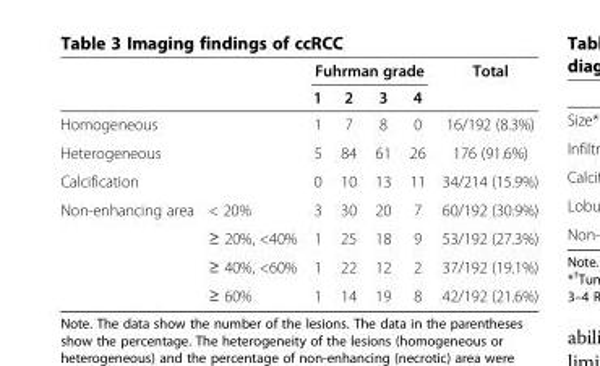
<table><thead><tr><td rowspan="2"></td><td rowspan="2"></td><td colspan="4">Fuhrman grade</td><td rowspan="2">Total</td></tr><tr><td>1</td><td>2</td><td>3</td><td>4</td></tr></thead><tbody><tr><td colspan="2">Homogeneous</td><td>1</td><td>7</td><td>8</td><td>0</td><td>16/192 (8.3%)</td></tr><tr><td colspan="2">Heterogeneous</td><td>5</td><td>84</td><td>61</td><td>26</td><td>176 (91.6%)</td></tr><tr><td colspan="2">Calcification</td><td>0</td><td>10</td><td>13</td><td>11</td><td>34/214 (15.9%)</td></tr><tr><td rowspan="4">Non-enhancing area</td><td>&lt; 20%</td><td>3</td><td>30</td><td>20</td><td>7</td><td>60/192 (30.9%)</td></tr><tr><td>≥ 20%, &lt;40%</td><td>1</td><td>25</td><td>18</td><td>9</td><td>53/192 (27.3%)</td></tr><tr><td>≥ 40%, &lt;60%</td><td>1</td><td>22</td><td>12</td><td>2</td><td>37/192 (19.1%)</td></tr><tr><td>≥ 60%</td><td>1</td><td>14</td><td>19</td><td>8</td><td>42/192 (21.6%)</td></tr></tbody></table>